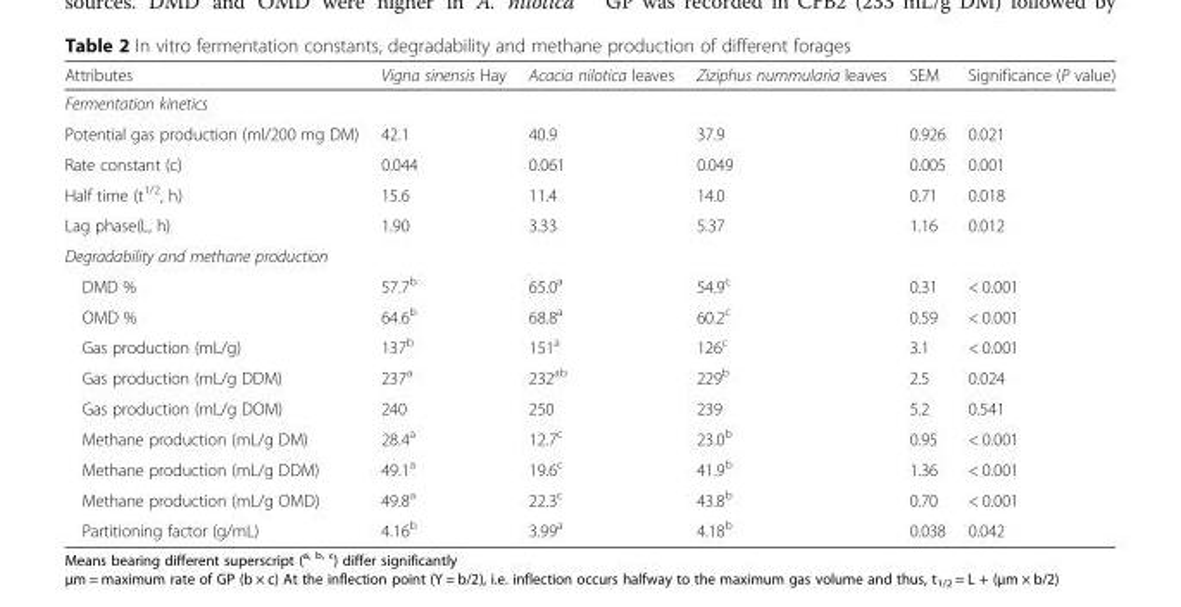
<table><thead><tr><td>Attributes</td><td>Vigna sinensis Hay</td><td>Acacia nilotica leaves</td><td>Ziziphus nummularia leaves</td><td>SEM</td><td>Significance (P value)</td></tr></thead><tbody><tr><td colspan="6">Fermentation kinetics</td></tr><tr><td>Potential gas production (ml/200 mg DM)</td><td>42.1</td><td>40.9</td><td>37.9</td><td>0.926</td><td>0.021</td></tr><tr><td>Rate constant (c)</td><td>0.044</td><td>0.061</td><td>0.049</td><td>0.005</td><td>0.001</td></tr><tr><td>Half time (t<sup>1/2</sup>, h)</td><td>15.6</td><td>11.4</td><td>14.0</td><td>0.71</td><td>0.018</td></tr><tr><td>Lag phase(L, h)</td><td>1.90</td><td>3.33</td><td>5.37</td><td>1.16</td><td>0.012</td></tr><tr><td colspan="6">Degradability and methane production</td></tr><tr><td>DMD %</td><td>57.7<sup>b</sup></td><td>65.0<sup>a</sup></td><td>54.9<sup>c</sup></td><td>0.31</td><td>&lt; 0.001</td></tr><tr><td>OMD %</td><td>64.6<sup>b</sup></td><td>68.8<sup>a</sup></td><td>60.2<sup>c</sup></td><td>0.59</td><td>&lt; 0.001</td></tr><tr><td>Gas production (mL/g)</td><td>137<sup>b</sup></td><td>151<sup>a</sup></td><td>126<sup>c</sup></td><td>3.1</td><td>&lt; 0.001</td></tr><tr><td>Gas production (mL/g DDM)</td><td>237<sup>a</sup></td><td>232<sup>ab</sup></td><td>229<sup>b</sup></td><td>2.5</td><td>0.024</td></tr><tr><td>Gas production (mL/g DOM)</td><td>240</td><td>250</td><td>239</td><td>5.2</td><td>0.541</td></tr><tr><td>Methane production (mL/g DM)</td><td>28.4<sup>a</sup></td><td>12.7<sup>c</sup></td><td>23.0<sup>b</sup></td><td>0.95</td><td>&lt; 0.001</td></tr><tr><td>Methane production (mL/g DDM)</td><td>49.1<sup>a</sup></td><td>19.6<sup>c</sup></td><td>41.9<sup>b</sup></td><td>1.36</td><td>&lt; 0.001</td></tr><tr><td>Methane production (mL/g OMD)</td><td>49.8<sup>a</sup></td><td>22.3<sup>c</sup></td><td>43.8<sup>b</sup></td><td>0.70</td><td>&lt; 0.001</td></tr><tr><td>Partitioning factor (g/mL)</td><td>4.16<sup>b</sup></td><td>3.99<sup>a</sup></td><td>4.18<sup>b</sup></td><td>0.038</td><td>0.042</td></tr></tbody></table>